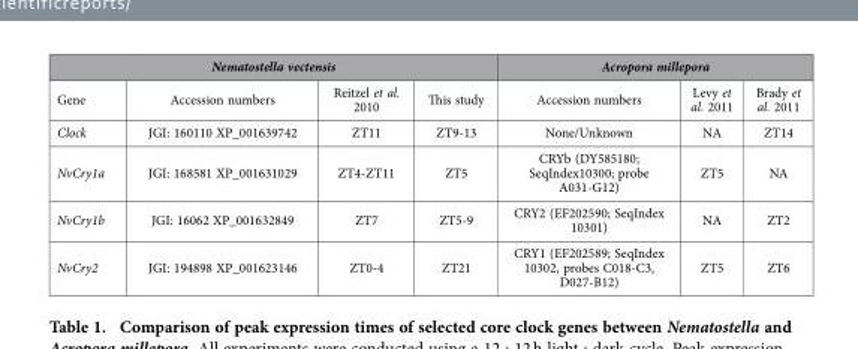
<table><thead><tr><td colspan="4">Nematostella vectensis</td><td colspan="3">Acropora millepora</td></tr><tr><td>Gene</td><td>Accession numbers</td><td>Reitzel et al. 2010</td><td>This study</td><td>Accession numbers</td><td>Levy et al. 2011</td><td>Brady et al. 2011</td></tr></thead><tbody><tr><td>Clock</td><td>JGI: 160110 XP_001639742</td><td>ZT11</td><td>ZT9-13</td><td>None/Unknown</td><td>NA</td><td>ZT14</td></tr><tr><td>NvCry1a</td><td>JGI: 168581 XP_001631029</td><td>ZT4-ZT11</td><td>ZT5</td><td>CRYb (DY585180; SeqIndex10300; probe A031-G12)</td><td>ZT5</td><td>NA</td></tr><tr><td>NvCry1b</td><td>JGI: 16062 XP_001632849</td><td>ZT7</td><td>ZT5-9</td><td>CRY2 (EF202590; SeqIndex 10301)</td><td>NA</td><td>ZT2</td></tr><tr><td>NvCry2</td><td>JGI: 194898 XP_001623146</td><td>ZT0-4</td><td>ZT21</td><td>CRY1 (EF202589; SeqIndex 10302, probes C018-C3, D027-B12)</td><td>ZT5</td><td>ZT6</td></tr></tbody></table>